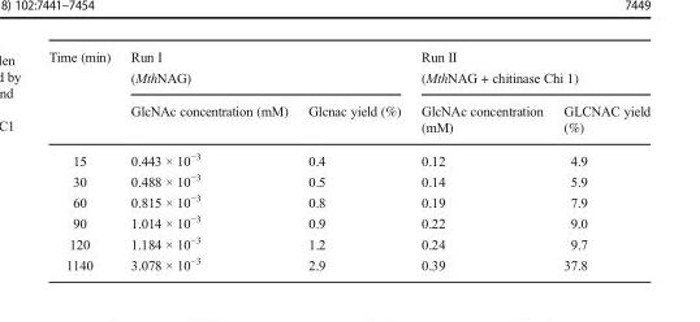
<table><thead><tr><td rowspan="2">Time (min)</td><td colspan="2">Run I (MthNAG)</td><td colspan="2">Run II (MthNAG + chitinase Chi 1)</td></tr><tr><td>GlcNAc concentration (mM)</td><td>Glcnac yield (%)</td><td>GlcNAc concentration (mM)</td><td>GLCNAC yield (%)</td></tr></thead><tbody><tr><td>15</td><td>0.443 × 10<sup>−3</sup></td><td>0.4</td><td>0.12</td><td>4.9</td></tr><tr><td>30</td><td>0.488 × 10<sup>−3</sup></td><td>0.5</td><td>0.14</td><td>5.9</td></tr><tr><td>60</td><td>0.815 × 10<sup>−3</sup></td><td>0.8</td><td>0.19</td><td>7.9</td></tr><tr><td>90</td><td>1.014 × 10<sup>−3</sup></td><td>0.9</td><td>0.22</td><td>9.0</td></tr><tr><td>120</td><td>1.184 × 10<sup>−3</sup></td><td>1.2</td><td>0.24</td><td>9.7</td></tr><tr><td>1140</td><td>3.078 × 10<sup>−3</sup></td><td>2.9</td><td>0.39</td><td>37.8</td></tr></tbody></table>